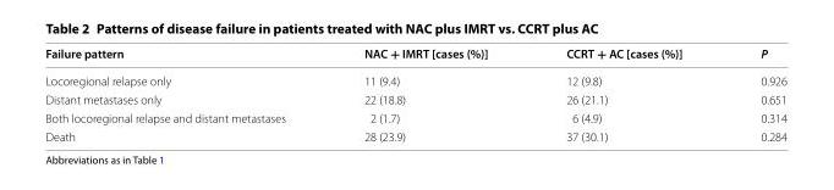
<table><thead><tr><td>Failure pattern</td><td>NAC + IMRT [cases (%)]</td><td>CCRT + AC [cases (%)]</td><td>P</td></tr></thead><tbody><tr><td>Locoregional relapse only</td><td>11 (9.4)</td><td>12 (9.8)</td><td>0.926</td></tr><tr><td>Distant metastases only</td><td>22 (18.8)</td><td>26 (21.1)</td><td>0.651</td></tr><tr><td>Both locoregional relapse and distant metastases</td><td>2 (1.7)</td><td>6 (4.9)</td><td>0.314</td></tr><tr><td>Death</td><td>28 (23.9)</td><td>37 (30.1)</td><td>0.284</td></tr></tbody></table>